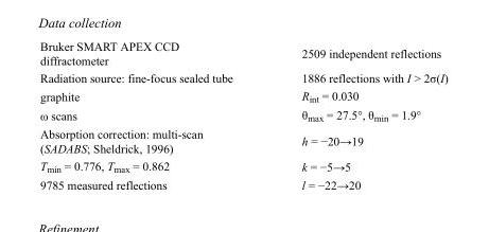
<table><tbody><tr><td>Bruker SMART APEX CCD diffractometer</td><td>2509 independent reflections</td></tr><tr><td>Radiation source: fine-focus sealed tube</td><td>1886 reflections with I &gt; 2σ(I)</td></tr><tr><td>graphite</td><td>R<sub>int</sub> = 0.030</td></tr><tr><td>ω scans</td><td>θ<sub>max</sub> = 27.5°, θ<sub>min</sub> = 1.9°</td></tr><tr><td>Absorption correction: multi-scan (SADABS; Sheldrick, 1996)</td><td>h = −20→19</td></tr><tr><td>T<sub>min</sub> = 0.776, T<sub>max</sub> = 0.862</td><td>k = −5→5</td></tr><tr><td>9785 measured reflections</td><td>l = −22→20</td></tr></tbody></table>